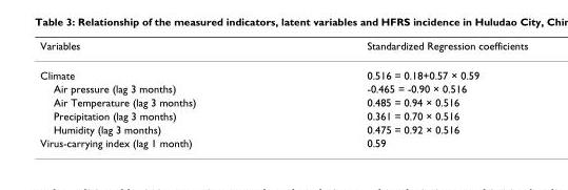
<table><thead><tr><td>Variables</td><td>Standardized Regression coefficients</td></tr></thead><tbody><tr><td>Climate</td><td>0.516 = 0.18+0.57 × 0.59</td></tr><tr><td>Air pressure (lag 3 months)</td><td>-0.465 = -0.90 × 0.516</td></tr><tr><td>Air Temperature (lag 3 months)</td><td>0.485 = 0.94 × 0.516</td></tr><tr><td>Precipitation (lag 3 months)</td><td>0.361 = 0.70 × 0.516</td></tr><tr><td>Humidity (lag 3 months)</td><td>0.475 = 0.92 × 0.516</td></tr><tr><td>Virus-carrying index (lag 1 month)</td><td>0.59</td></tr></tbody></table>